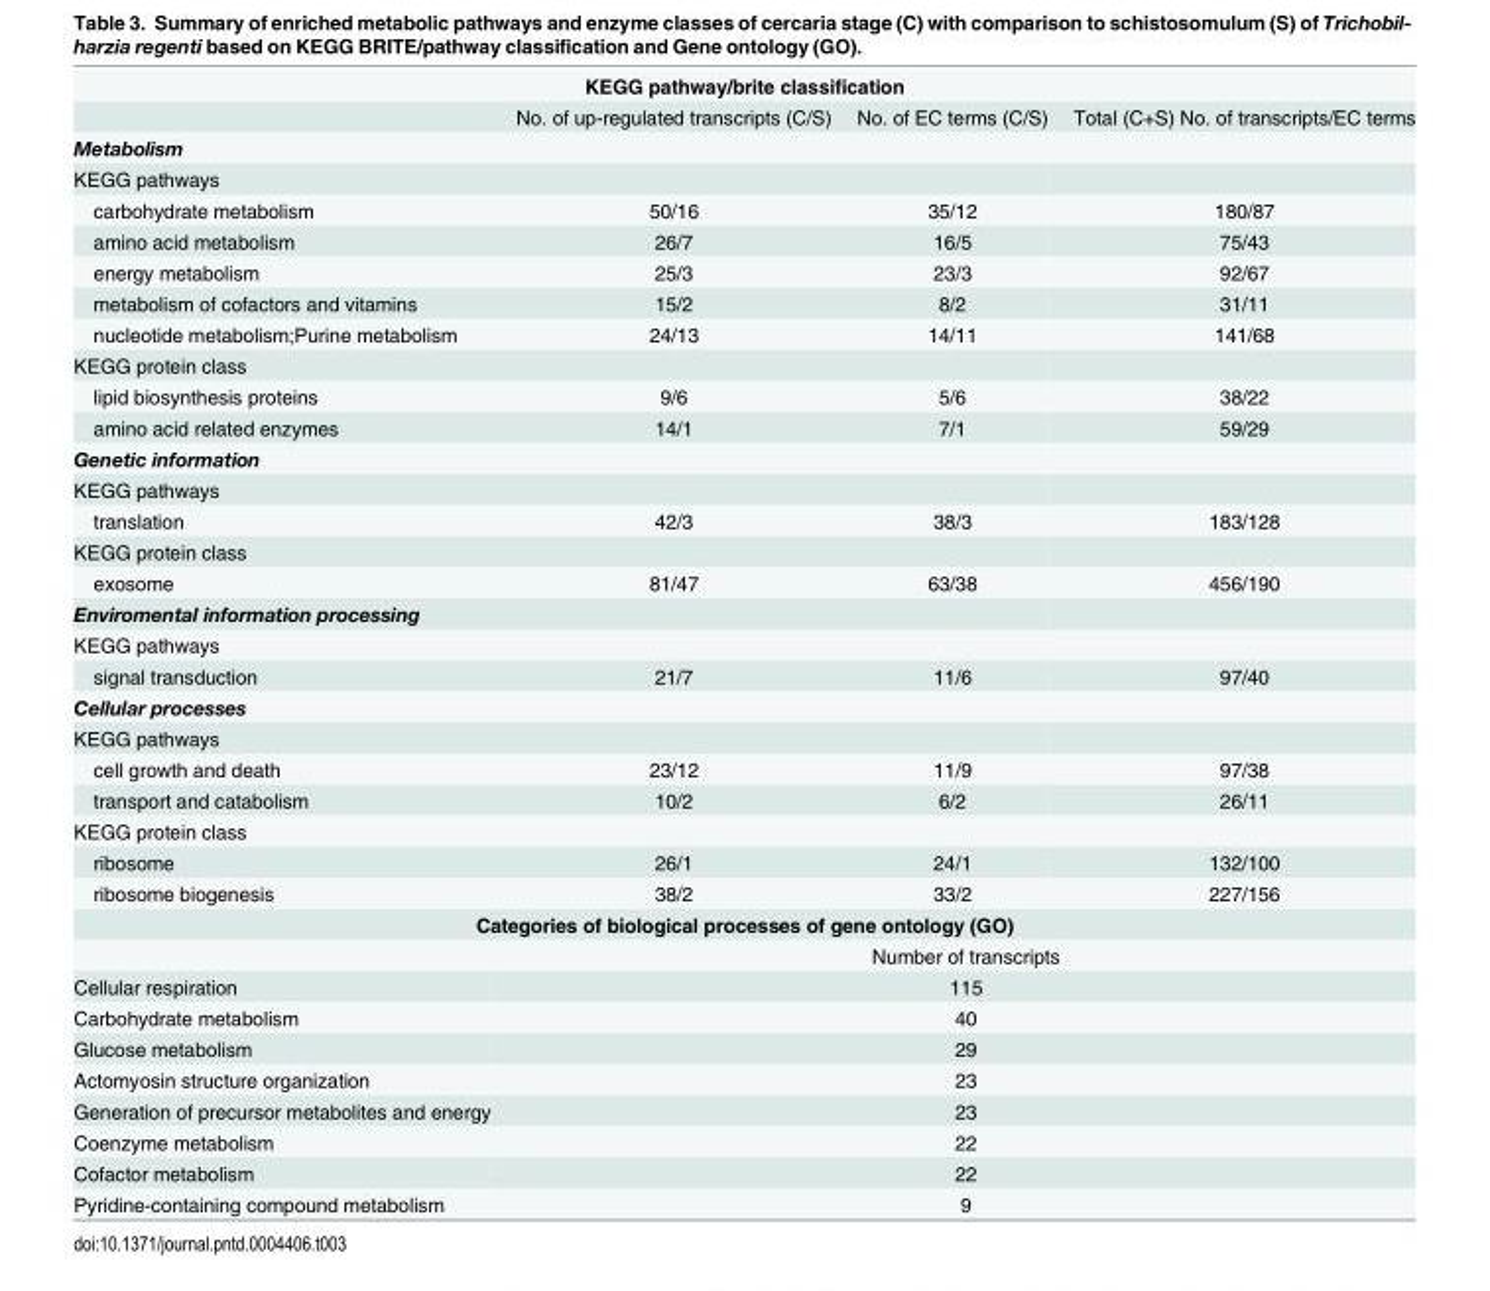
<table><tbody><tr><td colspan="4">KEGG pathway/brite classification</td></tr><tr><td></td><td>No. of up-regulated transcripts (C/S)</td><td>No. of EC terms (C/S)</td><td>Total (C+S) No. of transcripts/EC terms</td></tr><tr><td colspan="4">Metabolism</td></tr><tr><td colspan="4">KEGG pathways</td></tr><tr><td>carbohydrate metabolism</td><td>50/16</td><td>35/12</td><td>180/87</td></tr><tr><td>amino acid metabolism</td><td>26/7</td><td>16/5</td><td>75/43</td></tr><tr><td>energy metabolism</td><td>25/3</td><td>23/3</td><td>92/67</td></tr><tr><td>metabolism of cofactors and vitamins</td><td>15/2</td><td>8/2</td><td>31/11</td></tr><tr><td>nucleotide metabolism;Purine metabolism</td><td>24/13</td><td>14/11</td><td>141/68</td></tr><tr><td colspan="4">KEGG protein class</td></tr><tr><td>lipid biosynthesis proteins</td><td>9/6</td><td>5/6</td><td>38/22</td></tr><tr><td>amino acid related enzymes</td><td>14/1</td><td>7/1</td><td>59/29</td></tr><tr><td colspan="4">Genetic information</td></tr><tr><td colspan="4">KEGG pathways</td></tr><tr><td>translation</td><td>42/3</td><td>38/3</td><td>183/128</td></tr><tr><td colspan="4">KEGG protein class</td></tr><tr><td>exosome</td><td>81/47</td><td>63/38</td><td>456/190</td></tr><tr><td colspan="4">Enviromental information processing</td></tr><tr><td colspan="4">KEGG pathways</td></tr><tr><td>signal transduction</td><td>21/7</td><td>11/6</td><td>97/40</td></tr><tr><td colspan="4">Cellular processes</td></tr><tr><td colspan="4">KEGG pathways</td></tr><tr><td>cell growth and death</td><td>23/12</td><td>11/9</td><td>97/38</td></tr><tr><td>transport and catabolism</td><td>10/2</td><td>6/2</td><td>26/11</td></tr><tr><td colspan="4">KEGG protein class</td></tr><tr><td>ribosome</td><td>26/1</td><td>24/1</td><td>132/100</td></tr><tr><td>ribosome biogenesis</td><td>38/2</td><td>33/2</td><td>227/156</td></tr><tr><td colspan="4">Categories of biological processes of gene ontology (GO)</td></tr><tr><td></td><td colspan="3">Number of transcripts</td></tr><tr><td>Cellular respiration</td><td colspan="3">115</td></tr><tr><td>Carbohydrate metabolism</td><td colspan="3">40</td></tr><tr><td>Glucose metabolism</td><td colspan="3">29</td></tr><tr><td>Actomyosin structure organization</td><td colspan="3">23</td></tr><tr><td>Generation of precursor metabolites and energy</td><td colspan="3">23</td></tr><tr><td>Coenzyme metabolism</td><td colspan="3">22</td></tr><tr><td>Cofactor metabolism</td><td colspan="3">22</td></tr><tr><td>Pyridine-containing compound metabolism</td><td colspan="3">9</td></tr></tbody></table>